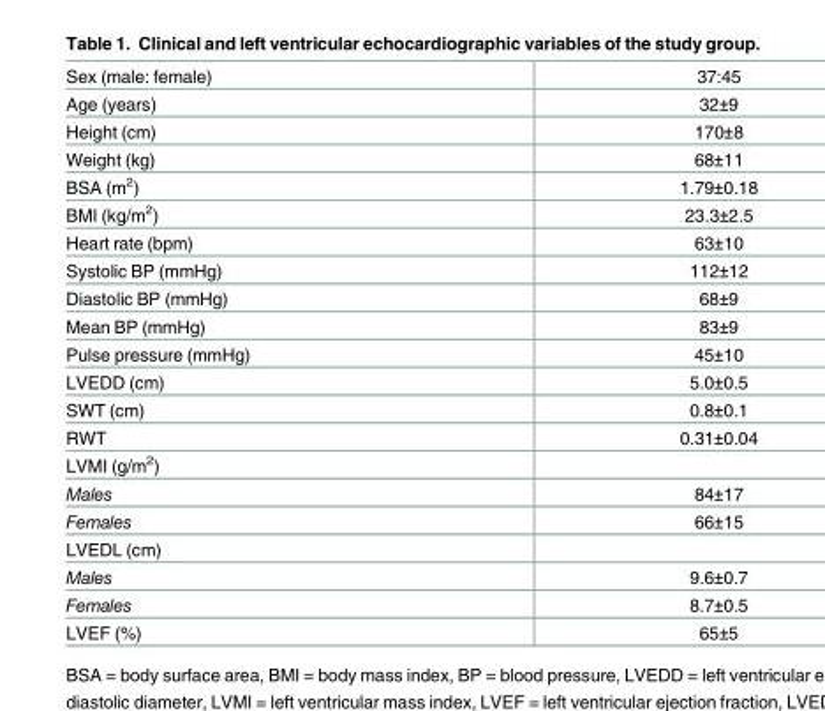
<table><tbody><tr><td>Sex (male: female)</td><td>37:45</td></tr><tr><td>Age (years)</td><td>32±9</td></tr><tr><td>Height (cm)</td><td>170±8</td></tr><tr><td>Weight (kg)</td><td>68±11</td></tr><tr><td>BSA (m<sup>2</sup>)</td><td>1.79±0.18</td></tr><tr><td>BMI (kg/m<sup>2</sup>)</td><td>23.3±2.5</td></tr><tr><td>Heart rate (bpm)</td><td>63±10</td></tr><tr><td>Systolic BP (mmHg)</td><td>112±12</td></tr><tr><td>Diastolic BP (mmHg)</td><td>68±9</td></tr><tr><td>Mean BP (mmHg)</td><td>83±9</td></tr><tr><td>Pulse pressure (mmHg)</td><td>45±10</td></tr><tr><td>LVEDD (cm)</td><td>5.0±0.5</td></tr><tr><td>SWT (cm)</td><td>0.8±0.1</td></tr><tr><td>RWT</td><td>0.31±0.04</td></tr><tr><td colspan="2">LVMI (g/m<sup>2</sup>)</td></tr><tr><td>Males</td><td>84±17</td></tr><tr><td>Females</td><td>66±15</td></tr><tr><td colspan="2">LVEDL (cm)</td></tr><tr><td>Males</td><td>9.6±0.7</td></tr><tr><td>Females</td><td>8.7±0.5</td></tr><tr><td>LVEF (%)</td><td>65±5</td></tr></tbody></table>